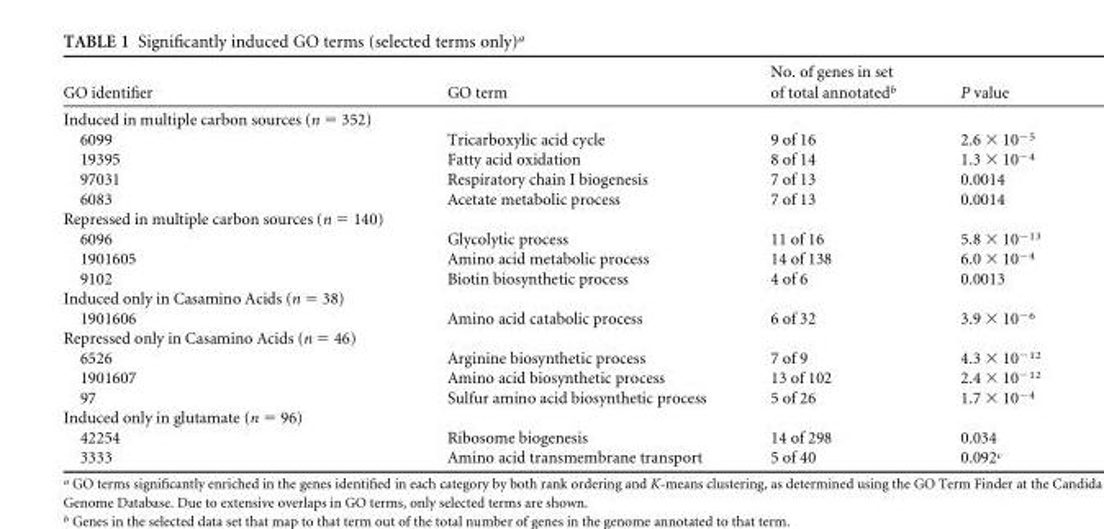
<table><thead><tr><td>GO identifier</td><td>GO term</td><td>No. of genes in set of total annotated<sup>b</sup></td><td>P value</td></tr></thead><tbody><tr><td colspan="4">Induced in multiple carbon sources (n = 352)</td></tr><tr><td>6099</td><td>Tricarboxylic acid cycle</td><td>9 of 16</td><td>2.6 × 10<sup>−5</sup></td></tr><tr><td>19395</td><td>Fatty acid oxidation</td><td>8 of 14</td><td>1.3 × 10<sup>−4</sup></td></tr><tr><td>97031</td><td>Respiratory chain I biogenesis</td><td>7 of 13</td><td>0.0014</td></tr><tr><td>6083</td><td>Acetate metabolic process</td><td>7 of 13</td><td>0.0014</td></tr><tr><td colspan="4">Repressed in multiple carbon sources (n = 140)</td></tr><tr><td>6096</td><td>Glycolytic process</td><td>11 of 16</td><td>5.8 × 10<sup>−13</sup></td></tr><tr><td>1901605</td><td>Amino acid metabolic process</td><td>14 of 138</td><td>6.0 × 10<sup>−4</sup></td></tr><tr><td>9102</td><td>Biotin biosynthetic process</td><td>4 of 6</td><td>0.0013</td></tr><tr><td colspan="4">Induced only in Casamino Acids (n = 38)</td></tr><tr><td>1901606</td><td>Amino acid catabolic process</td><td>6 of 32</td><td>3.9 × 10<sup>−6</sup></td></tr><tr><td colspan="4">Repressed only in Casamino Acids (n = 46)</td></tr><tr><td>6526</td><td>Arginine biosynthetic process</td><td>7 of 9</td><td>4.3 × 10<sup>−12</sup></td></tr><tr><td>1901607</td><td>Amino acid biosynthetic process</td><td>13 of 102</td><td>2.4 × 10<sup>−12</sup></td></tr><tr><td>97</td><td>Sulfur amino acid biosynthetic process</td><td>5 of 26</td><td>1.7 × 10<sup>−4</sup></td></tr><tr><td colspan="4">Induced only in glutamate (n = 96)</td></tr><tr><td>42254</td><td>Ribosome biogenesis</td><td>14 of 298</td><td>0.034</td></tr><tr><td>3333</td><td>Amino acid transmembrane transport</td><td>5 of 40</td><td>0.092<sup>c</sup></td></tr></tbody></table>